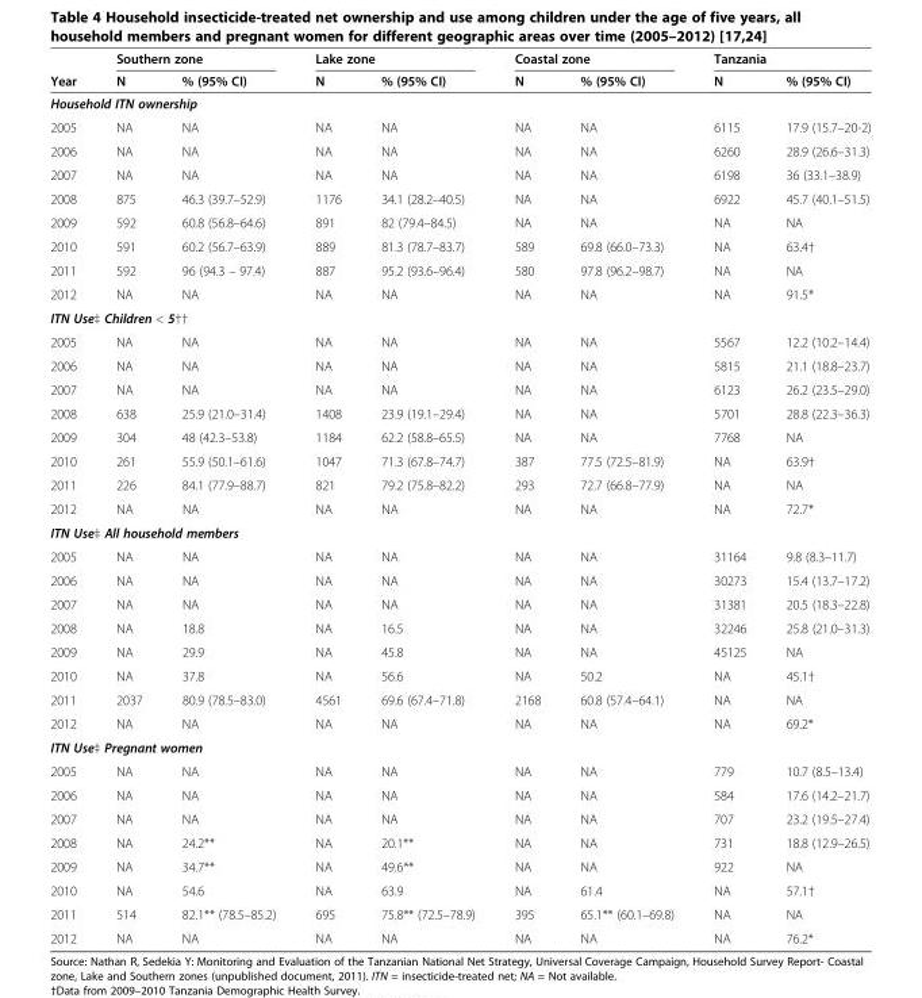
<table><thead><tr><td rowspan="2">Year</td><td colspan="2">Southern zone</td><td colspan="2">Lake zone</td><td colspan="2">Coastal zone</td><td colspan="2">Tanzania</td></tr><tr><td>N</td><td>% (95% CI)</td><td>N</td><td>% (95% CI)</td><td>N</td><td>% (95% CI)</td><td>N</td><td>% (95% CI)</td></tr></thead><tbody><tr><td colspan="9">Household ITN ownership</td></tr><tr><td>2005</td><td>NA</td><td>NA</td><td>NA</td><td>NA</td><td>NA</td><td>NA</td><td>6115</td><td>17.9 (15.7–20-2)</td></tr><tr><td>2006</td><td>NA</td><td>NA</td><td>NA</td><td>NA</td><td>NA</td><td>NA</td><td>6260</td><td>28.9 (26.6–31.3)</td></tr><tr><td>2007</td><td>NA</td><td>NA</td><td>NA</td><td>NA</td><td>NA</td><td>NA</td><td>6198</td><td>36 (33.1–38.9)</td></tr><tr><td>2008</td><td>875</td><td>46.3 (39.7–52.9)</td><td>1176</td><td>34.1 (28.2–40.5)</td><td>NA</td><td>NA</td><td>6922</td><td>45.7 (40.1–51.5)</td></tr><tr><td>2009</td><td>592</td><td>60.8 (56.8–64.6)</td><td>891</td><td>82 (79.4–84.5)</td><td>NA</td><td>NA</td><td>NA</td><td>NA</td></tr><tr><td>2010</td><td>591</td><td>60.2 (56.7–63.9)</td><td>889</td><td>81.3 (78.7–83.7)</td><td>589</td><td>69.8 (66.0–73.3)</td><td>NA</td><td>63.4†</td></tr><tr><td>2011</td><td>592</td><td>96 (94.3 – 97.4)</td><td>887</td><td>95.2 (93.6–96.4)</td><td>580</td><td>97.8 (96.2–98.7)</td><td>NA</td><td>NA</td></tr><tr><td>2012</td><td>NA</td><td>NA</td><td>NA</td><td>NA</td><td>NA</td><td>NA</td><td>NA</td><td>91.5*</td></tr><tr><td colspan="9">ITN Use‡ Children &lt; 5††</td></tr><tr><td>2005</td><td>NA</td><td>NA</td><td>NA</td><td>NA</td><td>NA</td><td>NA</td><td>5567</td><td>12.2 (10.2–14.4)</td></tr><tr><td>2006</td><td>NA</td><td>NA</td><td>NA</td><td>NA</td><td>NA</td><td>NA</td><td>5815</td><td>21.1 (18.8–23.7)</td></tr><tr><td>2007</td><td>NA</td><td>NA</td><td>NA</td><td>NA</td><td>NA</td><td>NA</td><td>6123</td><td>26.2 (23.5–29.0)</td></tr><tr><td>2008</td><td>638</td><td>25.9 (21.0–31.4)</td><td>1408</td><td>23.9 (19.1–29.4)</td><td>NA</td><td>NA</td><td>5701</td><td>28.8 (22.3–36.3)</td></tr><tr><td>2009</td><td>304</td><td>48 (42.3–53.8)</td><td>1184</td><td>62.2 (58.8–65.5)</td><td>NA</td><td>NA</td><td>7768</td><td>NA</td></tr><tr><td>2010</td><td>261</td><td>55.9 (50.1–61.6)</td><td>1047</td><td>71.3 (67.8–74.7)</td><td>387</td><td>77.5 (72.5–81.9)</td><td>NA</td><td>63.9†</td></tr><tr><td>2011</td><td>226</td><td>84.1 (77.9–88.7)</td><td>821</td><td>79.2 (75.8–82.2)</td><td>293</td><td>72.7 (66.8–77.9)</td><td>NA</td><td>NA</td></tr><tr><td>2012</td><td>NA</td><td>NA</td><td>NA</td><td>NA</td><td>NA</td><td>NA</td><td>NA</td><td>72.7*</td></tr><tr><td colspan="9">ITN Use‡ All household members</td></tr><tr><td>2005</td><td>NA</td><td>NA</td><td>NA</td><td>NA</td><td>NA</td><td>NA</td><td>31164</td><td>9.8 (8.3–11.7)</td></tr><tr><td>2006</td><td>NA</td><td>NA</td><td>NA</td><td>NA</td><td>NA</td><td>NA</td><td>30273</td><td>15.4 (13.7–17.2)</td></tr><tr><td>2007</td><td>NA</td><td>NA</td><td>NA</td><td>NA</td><td>NA</td><td>NA</td><td>31381</td><td>20.5 (18.3–22.8)</td></tr><tr><td>2008</td><td>NA</td><td>18.8</td><td>NA</td><td>16.5</td><td>NA</td><td>NA</td><td>32246</td><td>25.8 (21.0–31.3)</td></tr><tr><td>2009</td><td>NA</td><td>29.9</td><td>NA</td><td>45.8</td><td>NA</td><td>NA</td><td>45125</td><td>NA</td></tr><tr><td>2010</td><td>NA</td><td>37.8</td><td>NA</td><td>56.6</td><td>NA</td><td>50.2</td><td>NA</td><td>45.1†</td></tr><tr><td>2011</td><td>2037</td><td>80.9 (78.5–83.0)</td><td>4561</td><td>69.6 (67.4–71.8)</td><td>2168</td><td>60.8 (57.4–64.1)</td><td>NA</td><td>NA</td></tr><tr><td>2012</td><td>NA</td><td>NA</td><td>NA</td><td>NA</td><td>NA</td><td>NA</td><td>NA</td><td>69.2*</td></tr><tr><td colspan="9">ITN Use‡ Pregnant women</td></tr><tr><td>2005</td><td>NA</td><td>NA</td><td>NA</td><td>NA</td><td>NA</td><td>NA</td><td>779</td><td>10.7 (8.5–13.4)</td></tr><tr><td>2006</td><td>NA</td><td>NA</td><td>NA</td><td>NA</td><td>NA</td><td>NA</td><td>584</td><td>17.6 (14.2–21.7)</td></tr><tr><td>2007</td><td>NA</td><td>NA</td><td>NA</td><td>NA</td><td>NA</td><td>NA</td><td>707</td><td>23.2 (19.5–27.4)</td></tr><tr><td>2008</td><td>NA</td><td>24.2**</td><td>NA</td><td>20.1**</td><td>NA</td><td>NA</td><td>731</td><td>18.8 (12.9–26.5)</td></tr><tr><td>2009</td><td>NA</td><td>34.7**</td><td>NA</td><td>49.6**</td><td>NA</td><td>NA</td><td>922</td><td>NA</td></tr><tr><td>2010</td><td>NA</td><td>54.6</td><td>NA</td><td>63.9</td><td>NA</td><td>61.4</td><td>NA</td><td>57.1†</td></tr><tr><td>2011</td><td>514</td><td>82.1** (78.5–85.2)</td><td>695</td><td>75.8** (72.5–78.9)</td><td>395</td><td>65.1** (60.1–69.8)</td><td>NA</td><td>NA</td></tr><tr><td>2012</td><td>NA</td><td>NA</td><td>NA</td><td>NA</td><td>NA</td><td>NA</td><td>NA</td><td>76.2*</td></tr></tbody></table>